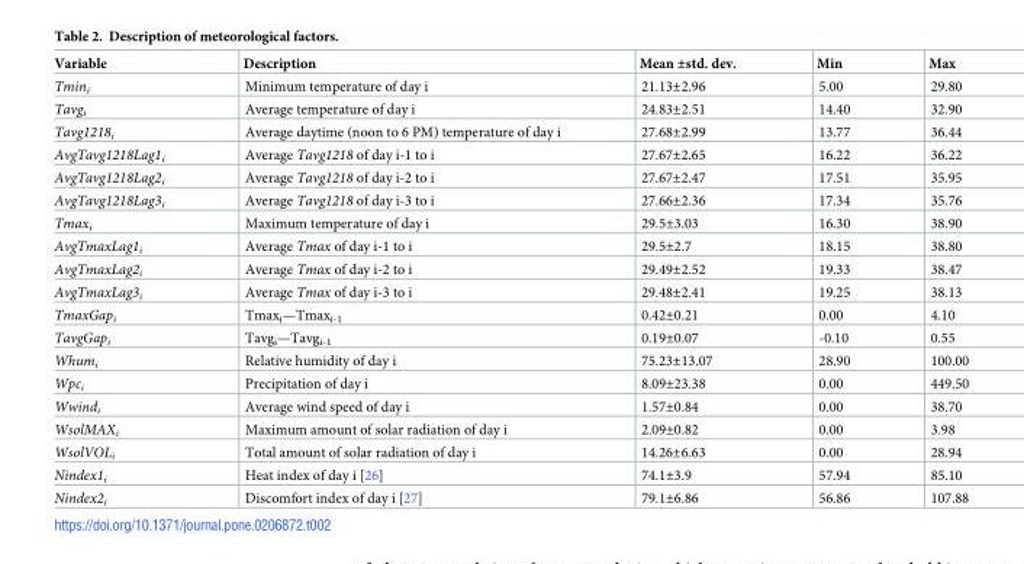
<table><thead><tr><td>Variable</td><td>Description</td><td>Mean ±std. dev.</td><td>Min</td><td>Max</td></tr></thead><tbody><tr><td>Tmin<sub>i</sub></td><td>Minimum temperature of day i</td><td>21.13±2.96</td><td>5.00</td><td>29.80</td></tr><tr><td>Tavg<sub>i</sub></td><td>Average temperature of day i</td><td>24.83±2.51</td><td>14.40</td><td>32.90</td></tr><tr><td>Tavg1218<sub>i</sub></td><td>Average daytime (noon to 6 PM) temperature of day i</td><td>27.68±2.99</td><td>13.77</td><td>36.44</td></tr><tr><td>AvgTavg1218Lag1<sub>i</sub></td><td>Average Tavg1218 of day i-1 to i</td><td>27.67±2.65</td><td>16.22</td><td>36.22</td></tr><tr><td>AvgTavg1218Lag2<sub>i</sub></td><td>Average Tavg1218 of day i-2 to i</td><td>27.67±2.47</td><td>17.51</td><td>35.95</td></tr><tr><td>AvgTavg1218Lag3<sub>i</sub></td><td>Average Tavg1218 of day i-3 to i</td><td>27.66±2.36</td><td>17.34</td><td>35.76</td></tr><tr><td>Tmax<sub>i</sub></td><td>Maximum temperature of day i</td><td>29.5±3.03</td><td>16.30</td><td>38.90</td></tr><tr><td>AvgTmaxLag1<sub>i</sub></td><td>Average Tmax of day i-1 to i</td><td>29.5±2.7</td><td>18.15</td><td>38.80</td></tr><tr><td>AvgTmaxLag2<sub>i</sub></td><td>Average Tmax of day i-2 to i</td><td>29.49±2.52</td><td>19.33</td><td>38.47</td></tr><tr><td>AvgTmaxLag3<sub>i</sub></td><td>Average Tmax of day i-3 to i</td><td>29.48±2.41</td><td>19.25</td><td>38.13</td></tr><tr><td>TmaxGap<sub>i</sub></td><td>Tmax<sub>i</sub>—Tmax<sub>i-1</sub></td><td>0.42±0.21</td><td>0.00</td><td>4.10</td></tr><tr><td>TavgGap<sub>i</sub></td><td>Tavg<sub>i</sub>—Tavg<sub>i-1</sub></td><td>0.19±0.07</td><td>-0.10</td><td>0.55</td></tr><tr><td>Whum<sub>i</sub></td><td>Relative humidity of day i</td><td>75.23±13.07</td><td>28.90</td><td>100.00</td></tr><tr><td>Wpc<sub>i</sub></td><td>Precipitation of day i</td><td>8.09±23.38</td><td>0.00</td><td>449.50</td></tr><tr><td>Wwind<sub>i</sub></td><td>Average wind speed of day i</td><td>1.57±0.84</td><td>0.00</td><td>38.70</td></tr><tr><td>WsolMAX<sub>i</sub></td><td>Maximum amount of solar radiation of day i</td><td>2.09±0.82</td><td>0.00</td><td>3.98</td></tr><tr><td>WsolVOL<sub>i</sub></td><td>Total amount of solar radiation of day i</td><td>14.26±6.63</td><td>0.00</td><td>28.94</td></tr><tr><td>Nindex1<sub>i</sub></td><td>Heat index of day i [26]</td><td>74.1±3.9</td><td>57.94</td><td>85.10</td></tr><tr><td>Nindex2<sub>i</sub></td><td>Discomfort index of day i [27]</td><td>79.1±6.86</td><td>56.86</td><td>107.88</td></tr></tbody></table>